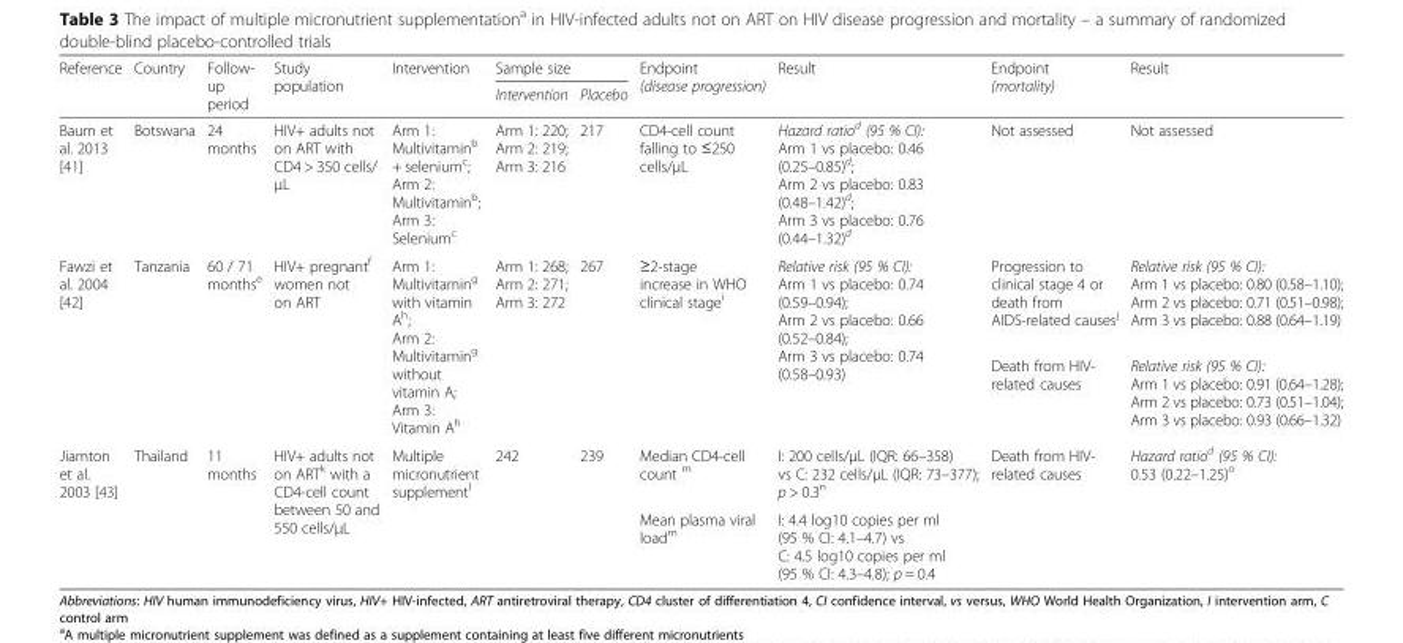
<table><thead><tr><td rowspan="2">Reference</td><td rowspan="2">Country</td><td rowspan="2">Follow- up period</td><td rowspan="2">Study population</td><td rowspan="2">Intervention</td><td colspan="2">Sample size</td><td rowspan="2">Endpoint (disease progression)</td><td rowspan="2">Result</td><td rowspan="2">Endpoint (mortality)</td><td rowspan="2">Result</td></tr><tr><td>Intervention</td><td>Placebo</td></tr></thead><tbody><tr><td>Baum et al. 2013 [41]</td><td>Botswana</td><td>24 months</td><td>HIV+ adults not on ART with CD4 &gt; 350 cells/ μL</td><td>Arm 1: Multivitamin<sup>b</sup> + selenium<sup>c</sup>; Arm 2: Multivitamin<sup>b</sup>; Arm 3: Selenium<sup>c</sup></td><td>Arm 1: 220; Arm 2: 219; Arm 3: 216</td><td>217</td><td>CD4-cell count falling to ≤250 cells/μL</td><td>Hazard ratio<sup>d</sup> (95 % CI): Arm 1 vs placebo: 0.46 (0.25–0.85)<sup>d</sup>; Arm 2 vs placebo: 0.83 (0.48–1.42)<sup>d</sup>; Arm 3 vs placebo: 0.76 (0.44–1.32)<sup>d</sup></td><td>Not assessed</td><td>Not assessed</td></tr><tr><td rowspan="2">Fawzi et al. 2004 [42]</td><td rowspan="2">Tanzania</td><td rowspan="2">60 / 71 months<sup>e</sup></td><td rowspan="2">HIV+ pregnant<sup>f</sup> women not on ART</td><td rowspan="2">Arm 1: Multivitamin<sup>g</sup> with vitamin A<sup>h</sup>; Arm 2: Multivitamin<sup>g</sup> without vitamin A; Arm 3: Vitamin A<sup>h</sup></td><td rowspan="2">Arm 1: 268; Arm 2: 271; Arm 3: 272</td><td rowspan="2">267</td><td rowspan="2">≥2-stage increase in WHO clinical stage<sup>i</sup></td><td rowspan="2">Relative risk (95 % CI): Arm 1 vs placebo: 0.74 (0.59–0.94); Arm 2 vs placebo: 0.66 (0.52–0.84); Arm 3 vs placebo: 0.74 (0.58–0.93)</td><td>Progression to clinical stage 4 or death from AIDS-related causes<sup>j</sup></td><td>Relative risk (95 % CI): Arm 1 vs placebo: 0.80 (0.58–1.10); Arm 2 vs placebo: 0.71 (0.51–0.98); Arm 3 vs placebo: 0.88 (0.64–1.19)</td></tr><tr><td>Death from HIV- related causes</td><td>Relative risk (95 % CI): Arm 1 vs placebo: 0.91 (0.64–1.28); Arm 2 vs placebo: 0.73 (0.51–1.04); Arm 3 vs placebo: 0.93 (0.66–1.32)</td></tr><tr><td rowspan="2">Jiamton et al. 2003 [43]</td><td rowspan="2">Thailand</td><td rowspan="2">11 months</td><td rowspan="2">HIV+ adults not on ART<sup>k</sup> with a CD4-cell count between 50 and 550 cells/μL</td><td rowspan="2">Multiple micronutrient supplement<sup>l</sup></td><td rowspan="2">242</td><td rowspan="2">239</td><td>Median CD4-cell count <sup>m</sup></td><td>I: 200 cells/μL (IQR: 66–358) vs C: 232 cells/μL (IQR: 73–377); p &gt; 0.3<sup>n</sup></td><td rowspan="2">Death from HIV- related causes</td><td rowspan="2">Hazard ratio<sup>d</sup> (95 % CI): 0.53 (0.22–1.25)<sup>o</sup></td></tr><tr><td>Mean plasma viral load<sup>m</sup></td><td>I: 4.4 log10 copies per ml (95 % CI: 4.1–4.7) vs C: 4.5 log10 copies per ml (95 % CI: 4.3–4.8); p = 0.4</td></tr></tbody></table>